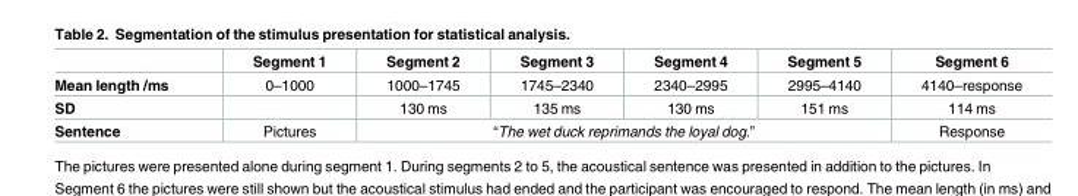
<table><thead><tr><td></td><td>Segment 1</td><td>Segment 2</td><td>Segment 3</td><td>Segment 4</td><td>Segment 5</td><td>Segment 6</td></tr></thead><tbody><tr><td>Mean length /ms</td><td>0–1000</td><td>1000–1745</td><td>1745–2340</td><td>2340–2995</td><td>2995–4140</td><td>4140–response</td></tr><tr><td>SD</td><td></td><td>130 ms</td><td>135 ms</td><td>130 ms</td><td>151 ms</td><td>114 ms</td></tr><tr><td>Sentence</td><td>Pictures</td><td colspan="4">“The wet duck reprimands the loyal dog.”</td><td>Response</td></tr></tbody></table>